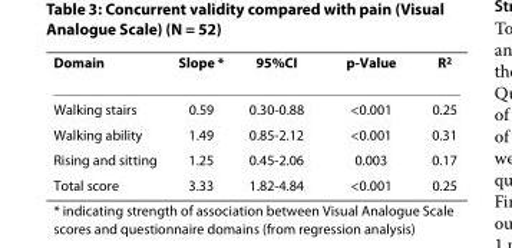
<table><thead><tr><td>Domain</td><td>Slope *</td><td>95%CI</td><td>p-Value</td><td>R<sup>2</sup></td></tr></thead><tbody><tr><td>Walking stairs</td><td>0.59</td><td>0.30-0.88</td><td>&lt;0.001</td><td>0.25</td></tr><tr><td>Walking ability</td><td>1.49</td><td>0.85-2.12</td><td>&lt;0.001</td><td>0.31</td></tr><tr><td>Rising and sitting</td><td>1.25</td><td>0.45-2.06</td><td>0.003</td><td>0.17</td></tr><tr><td>Total score</td><td>3.33</td><td>1.82-4.84</td><td>&lt;0.001</td><td>0.25</td></tr></tbody></table>